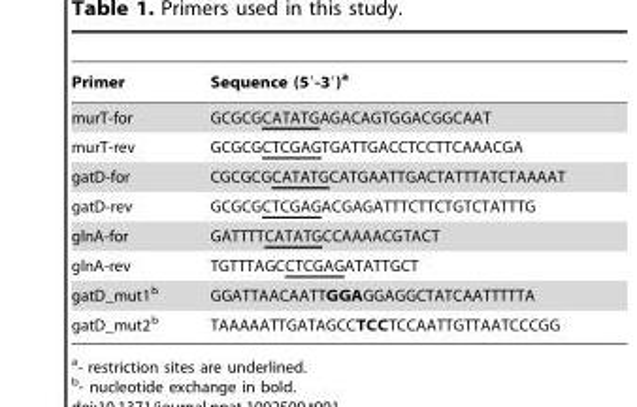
<table><thead><tr><td>Primer</td><td>Sequence (5′-3′)<sup>a</sup></td></tr></thead><tbody><tr><td>murT-for</td><td>GCGCGCATATGAGACAGTGGACGGCAAT</td></tr><tr><td>murT-rev</td><td>GCGCGCTCGAGTGATTGACCTCCTTCAAACGA</td></tr><tr><td>gatD-for</td><td>CGCGCGCATATGCATGAATTGACTATTTATCTAAAAT</td></tr><tr><td>gatD-rev</td><td>GCGCGCTCGAGACGAGATTTCTTCTGTCTATTTG</td></tr><tr><td>glnA-for</td><td>GATTTTCATATGCCAAAACGTACT</td></tr><tr><td>glnA-rev</td><td>TGTTTAGCCTCGAGATATTGCT</td></tr><tr><td>gatD_mut1<sup>b</sup></td><td>GGATTAACAATTGGAGGAGGCTATCAATTTTTA</td></tr><tr><td>gatD_mut2<sup>b</sup></td><td>TAAAAATTGATAGCCTCCTCCAATTGTTAATCCCGG</td></tr></tbody></table>